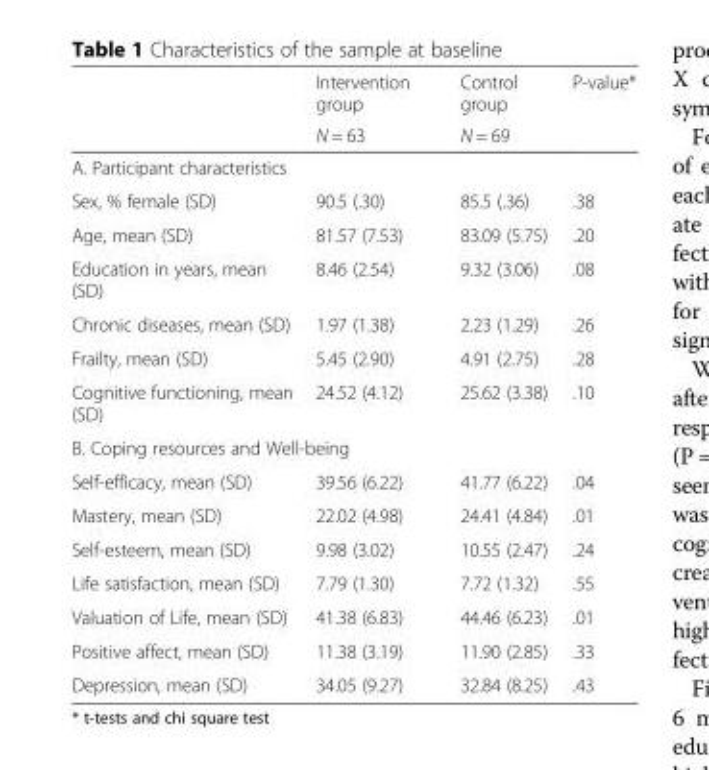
<table><thead><tr><td rowspan="2"></td><td rowspan="2">Intervention group N = 63</td><td rowspan="2">Control group N = 69</td><td rowspan="2">P-value*</td></tr><tr></tr></thead><tbody><tr><td colspan="4">A. Participant characteristics</td></tr><tr><td>Sex, % female (SD)</td><td>90.5 (.30)</td><td>85.5 (.36)</td><td>.38</td></tr><tr><td>Age, mean (SD)</td><td>81.57 (7.53)</td><td>83.09 (5.75)</td><td>.20</td></tr><tr><td>Education in years, mean (SD)</td><td>8.46 (2.54)</td><td>9.32 (3.06)</td><td>.08</td></tr><tr><td>Chronic diseases, mean (SD)</td><td>1.97 (1.38)</td><td>2.23 (1.29)</td><td>.26</td></tr><tr><td>Frailty, mean (SD)</td><td>5.45 (2.90)</td><td>4.91 (2.75)</td><td>.28</td></tr><tr><td>Cognitive functioning, mean (SD)</td><td>24.52 (4.12)</td><td>25.62 (3.38)</td><td>.10</td></tr><tr><td colspan="4">B. Coping resources and Well-being</td></tr><tr><td>Self-efficacy, mean (SD)</td><td>39.56 (6.22)</td><td>41.77 (6.22)</td><td>.04</td></tr><tr><td>Mastery, mean (SD)</td><td>22.02 (4.98)</td><td>24.41 (4.84)</td><td>.01</td></tr><tr><td>Self-esteem, mean (SD)</td><td>9.98 (3.02)</td><td>10.55 (2.47)</td><td>.24</td></tr><tr><td>Life satisfaction, mean (SD)</td><td>7.79 (1.30)</td><td>7.72 (1.32)</td><td>.55</td></tr><tr><td>Valuation of Life, mean (SD)</td><td>41.38 (6.83)</td><td>44.46 (6.23)</td><td>.01</td></tr><tr><td>Positive affect, mean (SD)</td><td>11.38 (3.19)</td><td>11.90 (2.85)</td><td>.33</td></tr><tr><td>Depression, mean (SD)</td><td>34.05 (9.27)</td><td>32.84 (8.25)</td><td>.43</td></tr></tbody></table>